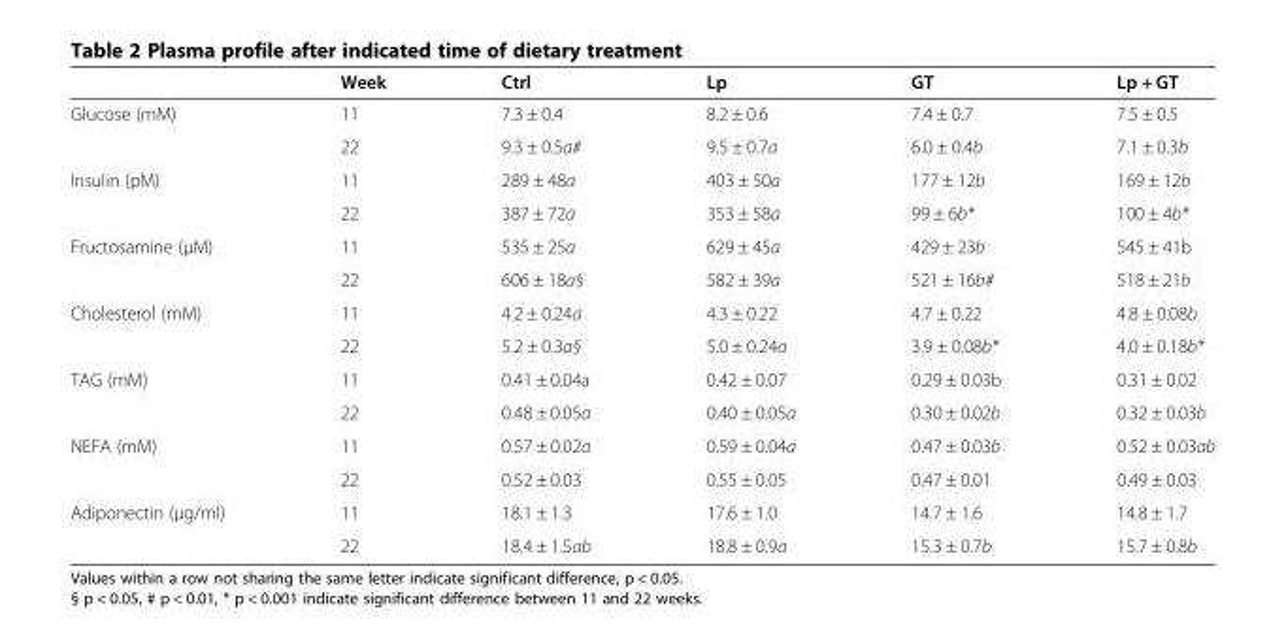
<table><thead><tr><td></td><td>Week</td><td>Ctrl</td><td>Lp</td><td>GT</td><td>Lp + GT</td></tr></thead><tbody><tr><td rowspan="2">Glucose (mM)</td><td>11</td><td>7.3 ± 0.4</td><td>8.2 ± 0.6</td><td>7.4 ± 0.7</td><td>7.5 ± 0.5</td></tr><tr><td>22</td><td>9.3 ± 0.5a#</td><td>9.5 ± 0.7a</td><td>6.0 ± 0.4b</td><td>7.1 ± 0.3b</td></tr><tr><td rowspan="2">Insulin (pM)</td><td>11</td><td>289 ± 48a</td><td>403 ± 50a</td><td>177 ± 12b</td><td>169 ± 12b</td></tr><tr><td>22</td><td>387 ± 72a</td><td>353 ± 58a</td><td>99 ± 6b*</td><td>100 ± 4b*</td></tr><tr><td rowspan="2">Fructosamine (μM)</td><td>11</td><td>535 ± 25a</td><td>629 ± 45a</td><td>429 ± 23b</td><td>545 ± 41b</td></tr><tr><td>22</td><td>606 ± 18a§</td><td>582 ± 39a</td><td>521 ± 16b#</td><td>518 ± 21b</td></tr><tr><td rowspan="2">Cholesterol (mM)</td><td>11</td><td>4.2 ± 0.24a</td><td>4.3 ± 0.22</td><td>4.7 ± 0.22</td><td>4.8 ± 0.08b</td></tr><tr><td>22</td><td>5.2 ± 0.3a§</td><td>5.0 ± 0.24a</td><td>3.9 ± 0.08b*</td><td>4.0 ± 0.18b*</td></tr><tr><td rowspan="2">TAG (mM)</td><td>11</td><td>0.41 ± 0.04a</td><td>0.42 ± 0.07</td><td>0.29 ± 0.03b</td><td>0.31 ± 0.02</td></tr><tr><td>22</td><td>0.48 ± 0.05a</td><td>0.40 ± 0.05a</td><td>0.30 ± 0.02b</td><td>0.32 ± 0.03b</td></tr><tr><td rowspan="2">NEFA (mM)</td><td>11</td><td>0.57 ± 0.02a</td><td>0.59 ± 0.04a</td><td>0.47 ± 0.03b</td><td>0.52 ± 0.03ab</td></tr><tr><td>22</td><td>0.52 ± 0.03</td><td>0.55 ± 0.05</td><td>0.47 ± 0.01</td><td>0.49 ± 0.03</td></tr><tr><td rowspan="2">Adiponectin (μg/ml)</td><td>11</td><td>18.1 ± 1.3</td><td>17.6 ± 1.0</td><td>14.7 ± 1.6</td><td>14.8 ± 1.7</td></tr><tr><td>22</td><td>18.4 ± 1.5ab</td><td>18.8 ± 0.9a</td><td>15.3 ± 0.7b</td><td>15.7 ± 0.8b</td></tr></tbody></table>